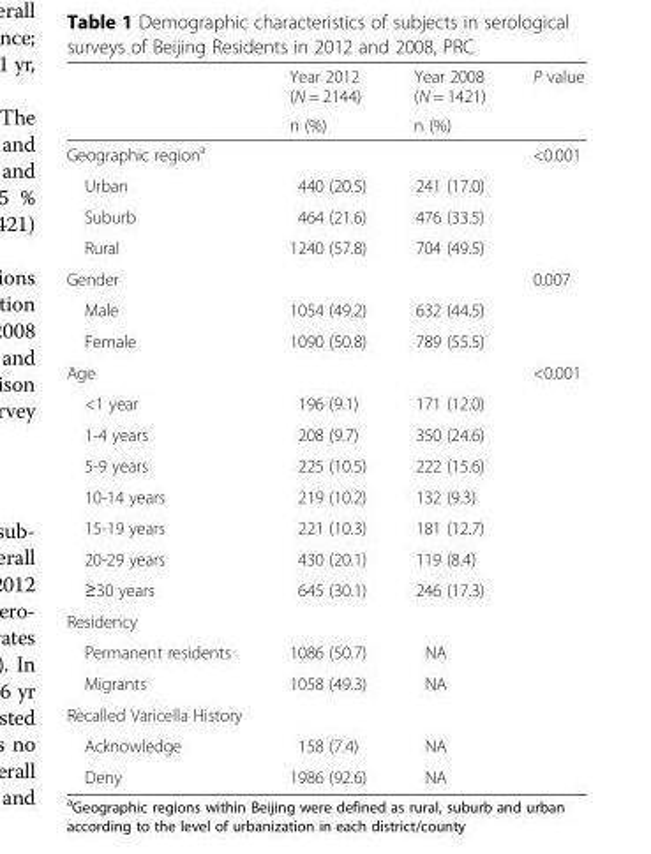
<table><thead><tr><td rowspan="2"></td><td rowspan="2">Year 2012 (N = 2144) n (%)</td><td rowspan="2">Year 2008 (N = 1421) n (%)</td><td rowspan="2">P value</td></tr><tr></tr></thead><tbody><tr><td colspan="3">Geographic region<sup>a</sup></td><td>&lt;0.001</td></tr><tr><td>Urban</td><td>440 (20.5)</td><td>241 (17.0)</td><td></td></tr><tr><td>Suburb</td><td>464 (21.6)</td><td>476 (33.5)</td><td></td></tr><tr><td>Rural</td><td>1240 (57.8)</td><td>704 (49.5)</td><td></td></tr><tr><td colspan="3">Gender</td><td>0.007</td></tr><tr><td>Male</td><td>1054 (49.2)</td><td>632 (44.5)</td><td></td></tr><tr><td>Female</td><td>1090 (50.8)</td><td>789 (55.5)</td><td></td></tr><tr><td colspan="3">Age</td><td>&lt;0.001</td></tr><tr><td>&lt;1 year</td><td>196 (9.1)</td><td>171 (12.0)</td><td></td></tr><tr><td>1-4 years</td><td>208 (9.7)</td><td>350 (24.6)</td><td></td></tr><tr><td>5-9 years</td><td>225 (10.5)</td><td>222 (15.6)</td><td></td></tr><tr><td>10-14 years</td><td>219 (10.2)</td><td>132 (9.3)</td><td></td></tr><tr><td>15-19 years</td><td>221 (10.3)</td><td>181 (12.7)</td><td></td></tr><tr><td>20-29 years</td><td>430 (20.1)</td><td>119 (8.4)</td><td></td></tr><tr><td>≥30 years</td><td>645 (30.1)</td><td>246 (17.3)</td><td></td></tr><tr><td colspan="4">Residency</td></tr><tr><td>Permanent residents</td><td>1086 (50.7)</td><td>NA</td><td></td></tr><tr><td>Migrants</td><td>1058 (49.3)</td><td>NA</td><td></td></tr><tr><td colspan="4">Recalled Varicella History</td></tr><tr><td>Acknowledge</td><td>158 (7.4)</td><td>NA</td><td></td></tr><tr><td>Deny</td><td>1986 (92.6)</td><td>NA</td><td></td></tr></tbody></table>